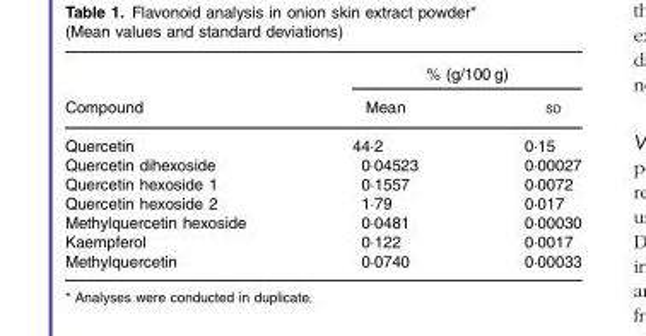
<table><thead><tr><td rowspan="2">Compound</td><td colspan="2">% (g/100 g)</td></tr><tr><td>Mean</td><td>SD</td></tr></thead><tbody><tr><td>Quercetin</td><td>44·2</td><td>0·15</td></tr><tr><td>Quercetin dihexoside</td><td>0·04523</td><td>0·00027</td></tr><tr><td>Quercetin hexoside 1</td><td>0·1557</td><td>0·0072</td></tr><tr><td>Quercetin hexoside 2</td><td>1·79</td><td>0·017</td></tr><tr><td>Methylquercetin hexoside</td><td>0·0481</td><td>0·00030</td></tr><tr><td>Kaempferol</td><td>0·122</td><td>0·0017</td></tr><tr><td>Methylquercetin</td><td>0·0740</td><td>0·00033</td></tr></tbody></table>